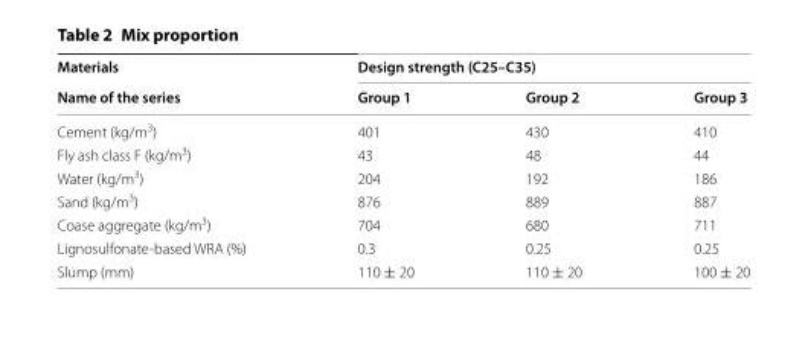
<table><thead><tr><td rowspan="2">Materials Name of the series</td><td colspan="3">Design strength (C25–C35)</td></tr><tr><td>Group 1</td><td>Group 2</td><td>Group 3</td></tr></thead><tbody><tr><td>Cement (kg/m<sup>3</sup>)</td><td>401</td><td>430</td><td>410</td></tr><tr><td>Fly ash class F (kg/m<sup>3</sup>)</td><td>43</td><td>48</td><td>44</td></tr><tr><td>Water (kg/m<sup>3</sup>)</td><td>204</td><td>192</td><td>186</td></tr><tr><td>Sand (kg/m<sup>3</sup>)</td><td>876</td><td>889</td><td>887</td></tr><tr><td>Coase aggregate (kg/m<sup>3</sup>)</td><td>704</td><td>680</td><td>711</td></tr><tr><td>Lignosulfonate-based WRA (%)</td><td>0.3</td><td>0.25</td><td>0.25</td></tr><tr><td>Slump (mm)</td><td>110 ± 20</td><td>110 ± 20</td><td>100 ± 20</td></tr></tbody></table>